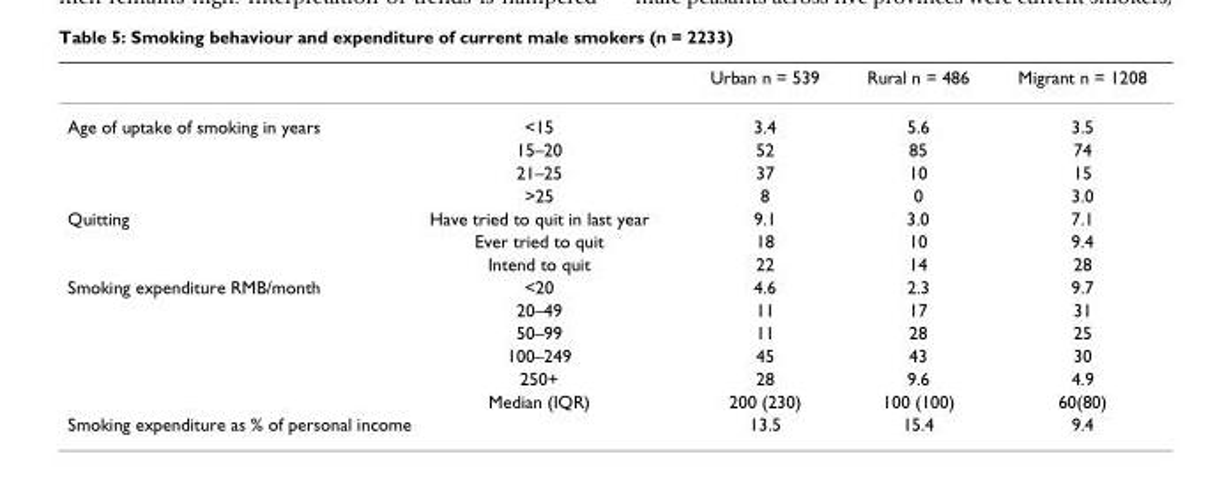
<table><thead><tr><td></td><td></td><td>Urban n = 539</td><td>Rural n = 486</td><td>Migrant n = 1208</td></tr></thead><tbody><tr><td rowspan="4">Age of uptake of smoking in years</td><td>&lt;15</td><td>3.4</td><td>5.6</td><td>3.5</td></tr><tr><td>15–20</td><td>52</td><td>85</td><td>74</td></tr><tr><td>21–25</td><td>37</td><td>10</td><td>15</td></tr><tr><td>&gt;25</td><td>8</td><td>0</td><td>3.0</td></tr><tr><td rowspan="3">Quitting</td><td>Have tried to quit in last year</td><td>9.1</td><td>3.0</td><td>7.1</td></tr><tr><td>Ever tried to quit</td><td>18</td><td>10</td><td>9.4</td></tr><tr><td>Intend to quit</td><td>22</td><td>14</td><td>28</td></tr><tr><td rowspan="6">Smoking expenditure RMB/month</td><td>&lt;20</td><td>4.6</td><td>2.3</td><td>9.7</td></tr><tr><td>20–49</td><td>11</td><td>17</td><td>31</td></tr><tr><td>50–99</td><td>11</td><td>28</td><td>25</td></tr><tr><td>100–249</td><td>45</td><td>43</td><td>30</td></tr><tr><td>250+</td><td>28</td><td>9.6</td><td>4.9</td></tr><tr><td>Median (IQR)</td><td>200 (230)</td><td>100 (100)</td><td>60(80)</td></tr><tr><td colspan="2">Smoking expenditure as % of personal income</td><td>13.5</td><td>15.4</td><td>9.4</td></tr></tbody></table>